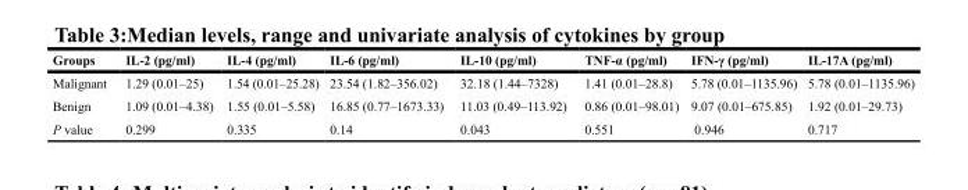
<table><thead><tr><td>Groups</td><td>IL-2 (pg/ml)</td><td>IL-4 (pg/ml)</td><td>IL-6 (pg/ml)</td><td>IL-10 (pg/ml)</td><td>TNF-α (pg/ml)</td><td>IFN-γ (pg/ml)</td><td>IL-17A (pg/ml)</td></tr></thead><tbody><tr><td>Malignant</td><td>1.29 (0.01–25)</td><td>1.54 (0.01–25.28)</td><td>23.54 (1.82–356.02)</td><td>32.18 (1.44–7328)</td><td>1.41 (0.01–28.8)</td><td>5.78 (0.01–1135.96)</td><td>5.78 (0.01–1135.96)</td></tr><tr><td>Benign</td><td>1.09 (0.01–4.38)</td><td>1.55 (0.01–5.58)</td><td>16.85 (0.77–1673.33)</td><td>11.03 (0.49–113.92)</td><td>0.86 (0.01–98.01)</td><td>9.07 (0.01–675.85)</td><td>1.92 (0.01–29.73)</td></tr><tr><td>P value</td><td>0.299</td><td>0.335</td><td>0.14</td><td>0.043</td><td>0.551</td><td>0.946</td><td>0.717</td></tr></tbody></table>